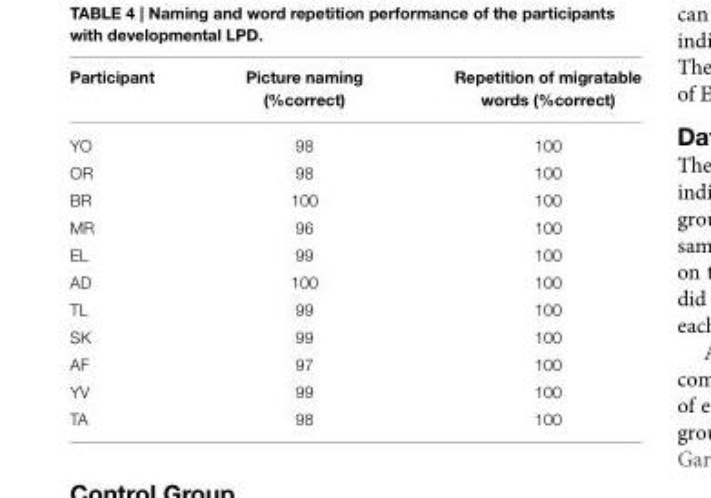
<table><thead><tr><td>Participant</td><td>Picture naming (%correct)</td><td>Repetition of migratable words (%correct)</td></tr></thead><tbody><tr><td>YO</td><td>98</td><td>100</td></tr><tr><td>OR</td><td>98</td><td>100</td></tr><tr><td>BR</td><td>100</td><td>100</td></tr><tr><td>MR</td><td>96</td><td>100</td></tr><tr><td>EL</td><td>99</td><td>100</td></tr><tr><td>AD</td><td>100</td><td>100</td></tr><tr><td>TL</td><td>99</td><td>100</td></tr><tr><td>SK</td><td>99</td><td>100</td></tr><tr><td>AF</td><td>97</td><td>100</td></tr><tr><td>YV</td><td>99</td><td>100</td></tr><tr><td>TA</td><td>98</td><td>100</td></tr></tbody></table>